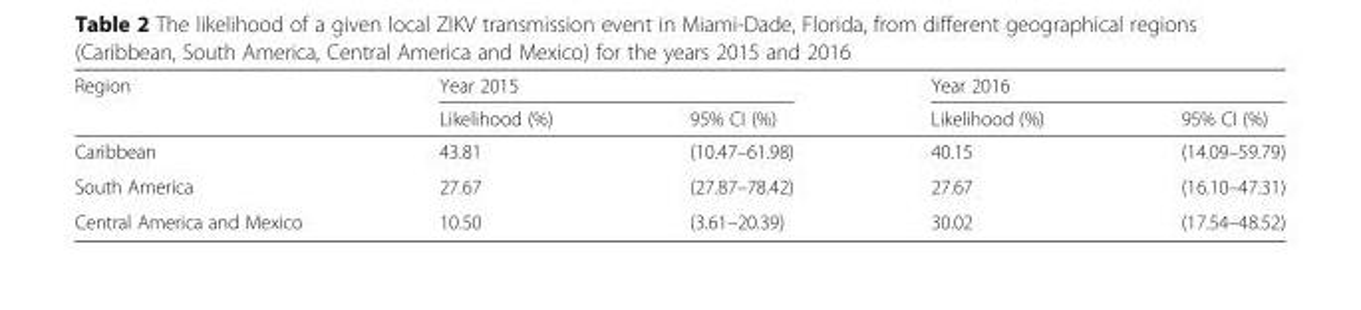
<table><thead><tr><td rowspan="2">Region</td><td colspan="2">Year 2015</td><td colspan="2">Year 2016</td></tr><tr><td>Likelihood (%)</td><td>95% CI (%)</td><td>Likelihood (%)</td><td>95% CI (%)</td></tr></thead><tbody><tr><td>Caribbean</td><td>43.81</td><td>(10.47–61.98)</td><td>40.15</td><td>(14.09–59.79)</td></tr><tr><td>South America</td><td>27.67</td><td>(27.87–78.42)</td><td>27.67</td><td>(16.10–47.31)</td></tr><tr><td>Central America and Mexico</td><td>10.50</td><td>(3.61–20.39)</td><td>30.02</td><td>(17.54–48.52)</td></tr></tbody></table>